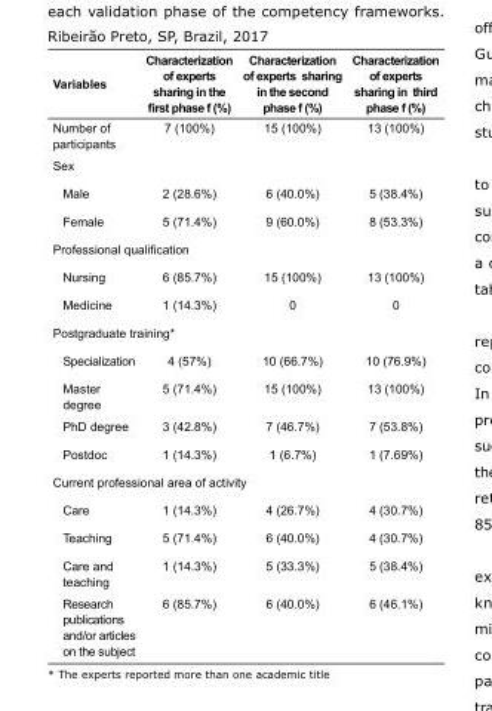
<table><tbody><tr><td>Variables</td><td>Characterization of experts sharing in the first phase f (%)</td><td>Characterization of experts sharing in the second phase f (%)</td><td>Characterization of experts sharing in third phase f (%)</td></tr><tr><td>Number of participants</td><td>7 (100%)</td><td>15 (100%)</td><td>13 (100%)</td></tr><tr><td colspan="4">Sex</td></tr><tr><td>Male</td><td>2 (28.6%)</td><td>6 (40.0%)</td><td>5 (38.4%)</td></tr><tr><td>Female</td><td>5 (71.4%)</td><td>9 (60.0%)</td><td>8 (53.3%)</td></tr><tr><td colspan="4">Professional qualification</td></tr><tr><td>Nursing</td><td>6 (85.7%)</td><td>15 (100%)</td><td>13 (100%)</td></tr><tr><td>Medicine</td><td>1 (14.3%)</td><td>0</td><td>0</td></tr><tr><td colspan="4">Postgraduate training*</td></tr><tr><td>Specialization</td><td>4 (57%)</td><td>10 (66.7%)</td><td>10 (76.9%)</td></tr><tr><td>Master degree</td><td>5 (71.4%)</td><td>15 (100%)</td><td>13 (100%)</td></tr><tr><td>PhD degree</td><td>3 (42.8%)</td><td>7 (46.7%)</td><td>7 (53.8%)</td></tr><tr><td>Postdoc</td><td>1 (14.3%)</td><td>1 (6.7%)</td><td>1 (7.69%)</td></tr><tr><td colspan="4">Current professional area of activity</td></tr><tr><td>Care</td><td>1 (14.3%)</td><td>4 (26.7%)</td><td>4 (30.7%)</td></tr><tr><td>Teaching</td><td>5 (71.4%)</td><td>6 (40.0%)</td><td>4 (30.7%)</td></tr><tr><td>Care and teaching</td><td>1 (14.3%)</td><td>5 (33.3%)</td><td>5 (38.4%)</td></tr><tr><td>Research publications and/or articles on the subject</td><td>6 (85.7%)</td><td>6 (40.0%)</td><td>6 (46.1%)</td></tr></tbody></table>